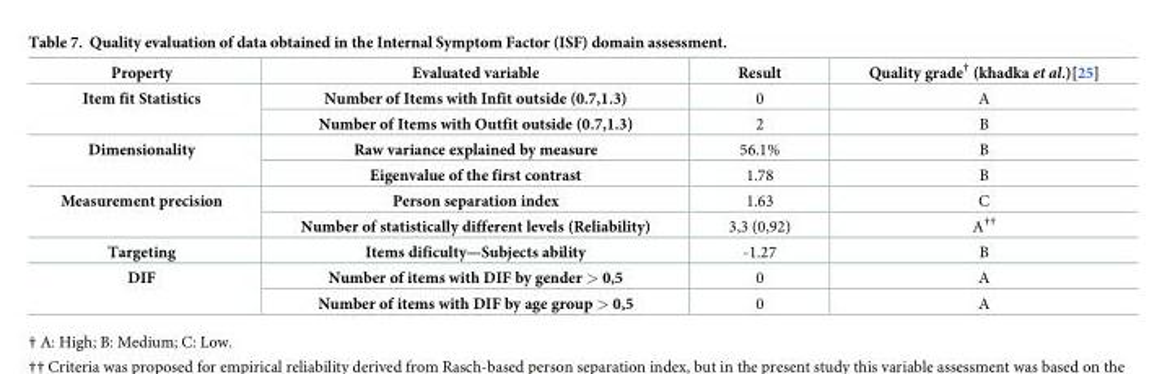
<table><thead><tr><td>Property</td><td>Evaluated variable</td><td>Result</td><td>Quality grade† (khadka et al.)[25]</td></tr></thead><tbody><tr><td rowspan="2">Item fit Statistics</td><td>Number of Items with Infit outside (0.7,1.3)</td><td>0</td><td>A</td></tr><tr><td>Number of Items with Outfit outside (0.7,1.3)</td><td>2</td><td>B</td></tr><tr><td rowspan="2">Dimensionality</td><td>Raw variance explained by measure</td><td>56.1%</td><td>B</td></tr><tr><td>Eigenvalue of the first contrast</td><td>1.78</td><td>B</td></tr><tr><td rowspan="2">Measurement precision</td><td>Person separation index</td><td>1.63</td><td>C</td></tr><tr><td>Number of statistically different levels (Reliability)</td><td>3,3 (0,92)</td><td>A††</td></tr><tr><td>Targeting</td><td>Items dificulty—Subjects ability</td><td>-1.27</td><td>B</td></tr><tr><td rowspan="2">DIF</td><td>Number of items with DIF by gender &gt; 0,5</td><td>0</td><td>A</td></tr><tr><td>Number of items with DIF by age group &gt; 0,5</td><td>0</td><td>A</td></tr></tbody></table>